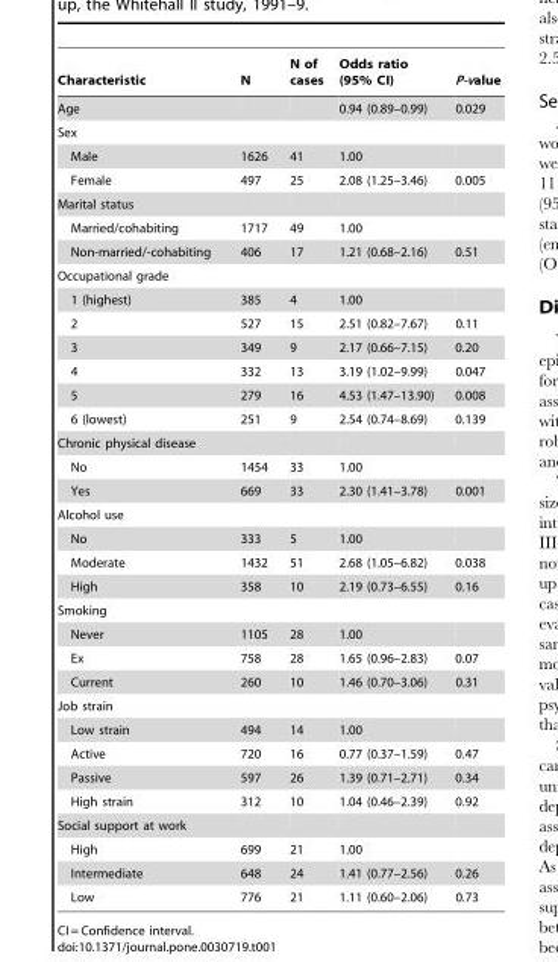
<table><thead><tr><td>Characteristic</td><td>N</td><td>N of cases</td><td>Odds ratio (95% CI)</td><td>P-value</td></tr></thead><tbody><tr><td>Age</td><td></td><td></td><td>0.94 (0.89–0.99)</td><td>0.029</td></tr><tr><td colspan="5">Sex</td></tr><tr><td>Male</td><td>1626</td><td>41</td><td>1.00</td><td></td></tr><tr><td>Female</td><td>497</td><td>25</td><td>2.08 (1.25–3.46)</td><td>0.005</td></tr><tr><td colspan="5">Marital status</td></tr><tr><td>Married/cohabiting</td><td>1717</td><td>49</td><td>1.00</td><td></td></tr><tr><td>Non-married/-cohabiting</td><td>406</td><td>17</td><td>1.21 (0.68–2.16)</td><td>0.51</td></tr><tr><td colspan="5">Occupational grade</td></tr><tr><td>1 (highest)</td><td>385</td><td>4</td><td>1.00</td><td></td></tr><tr><td>2</td><td>527</td><td>15</td><td>2.51 (0.82–7.67)</td><td>0.11</td></tr><tr><td>3</td><td>349</td><td>9</td><td>2.17 (0.66–7.15)</td><td>0.20</td></tr><tr><td>4</td><td>332</td><td>13</td><td>3.19 (1.02–9.99)</td><td>0.047</td></tr><tr><td>5</td><td>279</td><td>16</td><td>4.53 (1.47–13.90)</td><td>0.008</td></tr><tr><td>6 (lowest)</td><td>251</td><td>9</td><td>2.54 (0.74–8.69)</td><td>0.139</td></tr><tr><td colspan="5">Chronic physical disease</td></tr><tr><td>No</td><td>1454</td><td>33</td><td>1.00</td><td></td></tr><tr><td>Yes</td><td>669</td><td>33</td><td>2.30 (1.41–3.78)</td><td>0.001</td></tr><tr><td colspan="5">Alcohol use</td></tr><tr><td>No</td><td>333</td><td>5</td><td>1.00</td><td></td></tr><tr><td>Moderate</td><td>1432</td><td>51</td><td>2.68 (1.05–6.82)</td><td>0.038</td></tr><tr><td>High</td><td>358</td><td>10</td><td>2.19 (0.73–6.55)</td><td>0.16</td></tr><tr><td colspan="5">Smoking</td></tr><tr><td>Never</td><td>1105</td><td>28</td><td>1.00</td><td></td></tr><tr><td>Ex</td><td>758</td><td>28</td><td>1.65 (0.96–2.83)</td><td>0.07</td></tr><tr><td>Current</td><td>260</td><td>10</td><td>1.46 (0.70–3.06)</td><td>0.31</td></tr><tr><td colspan="5">Job strain</td></tr><tr><td>Low strain</td><td>494</td><td>14</td><td>1.00</td><td></td></tr><tr><td>Active</td><td>720</td><td>16</td><td>0.77 (0.37–1.59)</td><td>0.47</td></tr><tr><td>Passive</td><td>597</td><td>26</td><td>1.39 (0.71–2.71)</td><td>0.34</td></tr><tr><td>High strain</td><td>312</td><td>10</td><td>1.04 (0.46–2.39)</td><td>0.92</td></tr><tr><td colspan="5">Social support at work</td></tr><tr><td>High</td><td>699</td><td>21</td><td>1.00</td><td></td></tr><tr><td>Intermediate</td><td>648</td><td>24</td><td>1.41 (0.77–2.56)</td><td>0.26</td></tr><tr><td>Low</td><td>776</td><td>21</td><td>1.11 (0.60–2.06)</td><td>0.73</td></tr></tbody></table>